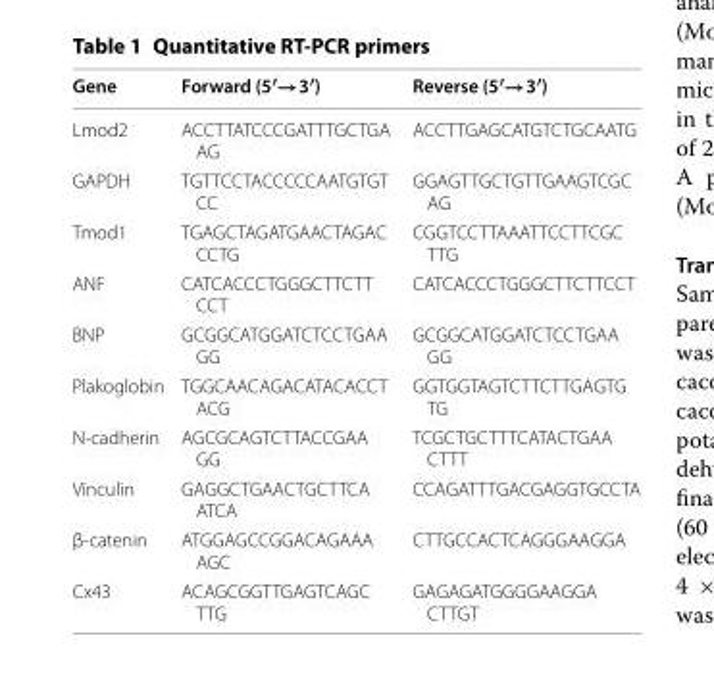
<table><thead><tr><td>Gene</td><td>Forward (5′→3′)</td><td>Reverse (5′→3′)</td></tr></thead><tbody><tr><td>Lmod2</td><td>ACCTTATCCCGATTTGCTGA AG</td><td>ACCTTGAGCATGTCTGCAATG</td></tr><tr><td>GAPDH</td><td>TGTTCCTACCCCCAATGTGT CC</td><td>GGAGTTGCTGTTGAAGTCGC AG</td></tr><tr><td>Tmod1</td><td>TGAGCTAGATGAACTAGAC CCTG</td><td>CGGTCCTTAAATTCCTTCGC TTG</td></tr><tr><td>ANF</td><td>CATCACCCTGGGCTTCTT CCT</td><td>CATCACCCTGGGCTTCTTCCT</td></tr><tr><td>BNP</td><td>GCGGCATGGATCTCCTGAA GG</td><td>GCGGCATGGATCTCCTGAA GG</td></tr><tr><td>Plakoglobin</td><td>TGGCAACAGACATACACCT ACG</td><td>GGTGGTAGTCTTCTTGAGTG TG</td></tr><tr><td>N‑cadherin</td><td>AGCGCAGTCTTACCGAA GG</td><td>TCGCTGCTTTCATACTGAA CTTT</td></tr><tr><td>Vinculin</td><td>GAGGCTGAACTGCTTCA ATCA</td><td>CCAGATTTGACGAGGTGCCTA</td></tr><tr><td>β‑catenin</td><td>ATGGAGCCGGACAGAAA AGC</td><td>CTTGCCACTCAGGGAAGGA</td></tr><tr><td>Cx43</td><td>ACAGCGGTTGAGTCAGC TTG</td><td>GAGAGATGGGGAAGGA CTTGT</td></tr></tbody></table>